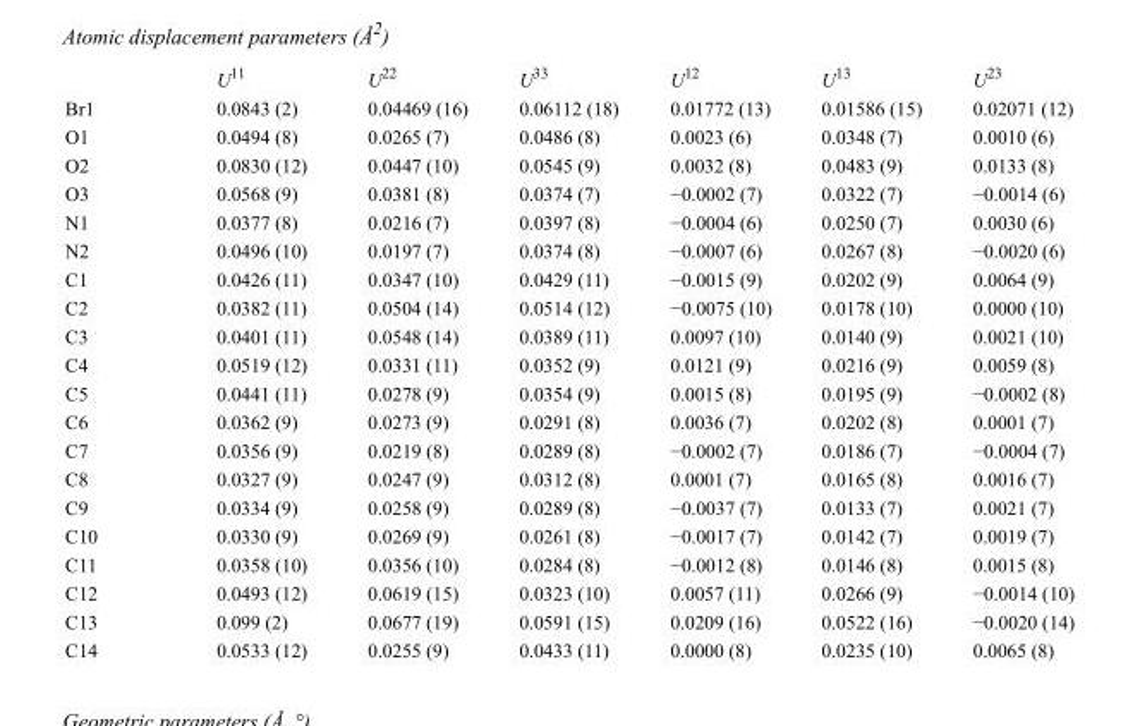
<table><thead><tr><td></td><td>U<sup>11</sup></td><td>U<sup>22</sup></td><td>U<sup>33</sup></td><td>U<sup>12</sup></td><td>U<sup>13</sup></td><td>U<sup>23</sup></td></tr></thead><tbody><tr><td>Br1</td><td>0.0843 (2)</td><td>0.04469 (16)</td><td>0.06112 (18)</td><td>0.01772 (13)</td><td>0.01586 (15)</td><td>0.02071 (12)</td></tr><tr><td>O1</td><td>0.0494 (8)</td><td>0.0265 (7)</td><td>0.0486 (8)</td><td>0.0023 (6)</td><td>0.0348 (7)</td><td>0.0010 (6)</td></tr><tr><td>O2</td><td>0.0830 (12)</td><td>0.0447 (10)</td><td>0.0545 (9)</td><td>0.0032 (8)</td><td>0.0483 (9)</td><td>0.0133 (8)</td></tr><tr><td>O3</td><td>0.0568 (9)</td><td>0.0381 (8)</td><td>0.0374 (7)</td><td>−0.0002 (7)</td><td>0.0322 (7)</td><td>−0.0014 (6)</td></tr><tr><td>N1</td><td>0.0377 (8)</td><td>0.0216 (7)</td><td>0.0397 (8)</td><td>−0.0004 (6)</td><td>0.0250 (7)</td><td>0.0030 (6)</td></tr><tr><td>N2</td><td>0.0496 (10)</td><td>0.0197 (7)</td><td>0.0374 (8)</td><td>−0.0007 (6)</td><td>0.0267 (8)</td><td>−0.0020 (6)</td></tr><tr><td>C1</td><td>0.0426 (11)</td><td>0.0347 (10)</td><td>0.0429 (11)</td><td>−0.0015 (9)</td><td>0.0202 (9)</td><td>0.0064 (9)</td></tr><tr><td>C2</td><td>0.0382 (11)</td><td>0.0504 (14)</td><td>0.0514 (12)</td><td>−0.0075 (10)</td><td>0.0178 (10)</td><td>0.0000 (10)</td></tr><tr><td>C3</td><td>0.0401 (11)</td><td>0.0548 (14)</td><td>0.0389 (11)</td><td>0.0097 (10)</td><td>0.0140 (9)</td><td>0.0021 (10)</td></tr><tr><td>C4</td><td>0.0519 (12)</td><td>0.0331 (11)</td><td>0.0352 (9)</td><td>0.0121 (9)</td><td>0.0216 (9)</td><td>0.0059 (8)</td></tr><tr><td>C5</td><td>0.0441 (11)</td><td>0.0278 (9)</td><td>0.0354 (9)</td><td>0.0015 (8)</td><td>0.0195 (9)</td><td>−0.0002 (8)</td></tr><tr><td>C6</td><td>0.0362 (9)</td><td>0.0273 (9)</td><td>0.0291 (8)</td><td>0.0036 (7)</td><td>0.0202 (8)</td><td>0.0001 (7)</td></tr><tr><td>C7</td><td>0.0356 (9)</td><td>0.0219 (8)</td><td>0.0289 (8)</td><td>−0.0002 (7)</td><td>0.0186 (7)</td><td>−0.0004 (7)</td></tr><tr><td>C8</td><td>0.0327 (9)</td><td>0.0247 (9)</td><td>0.0312 (8)</td><td>0.0001 (7)</td><td>0.0165 (8)</td><td>0.0016 (7)</td></tr><tr><td>C9</td><td>0.0334 (9)</td><td>0.0258 (9)</td><td>0.0289 (8)</td><td>−0.0037 (7)</td><td>0.0133 (7)</td><td>0.0021 (7)</td></tr><tr><td>C10</td><td>0.0330 (9)</td><td>0.0269 (9)</td><td>0.0261 (8)</td><td>−0.0017 (7)</td><td>0.0142 (7)</td><td>0.0019 (7)</td></tr><tr><td>C11</td><td>0.0358 (10)</td><td>0.0356 (10)</td><td>0.0284 (8)</td><td>−0.0012 (8)</td><td>0.0146 (8)</td><td>0.0015 (8)</td></tr><tr><td>C12</td><td>0.0493 (12)</td><td>0.0619 (15)</td><td>0.0323 (10)</td><td>0.0057 (11)</td><td>0.0266 (9)</td><td>−0.0014 (10)</td></tr><tr><td>C13</td><td>0.099 (2)</td><td>0.0677 (19)</td><td>0.0591 (15)</td><td>0.0209 (16)</td><td>0.0522 (16)</td><td>−0.0020 (14)</td></tr><tr><td>C14</td><td>0.0533 (12)</td><td>0.0255 (9)</td><td>0.0433 (11)</td><td>0.0000 (8)</td><td>0.0235 (10)</td><td>0.0065 (8)</td></tr></tbody></table>